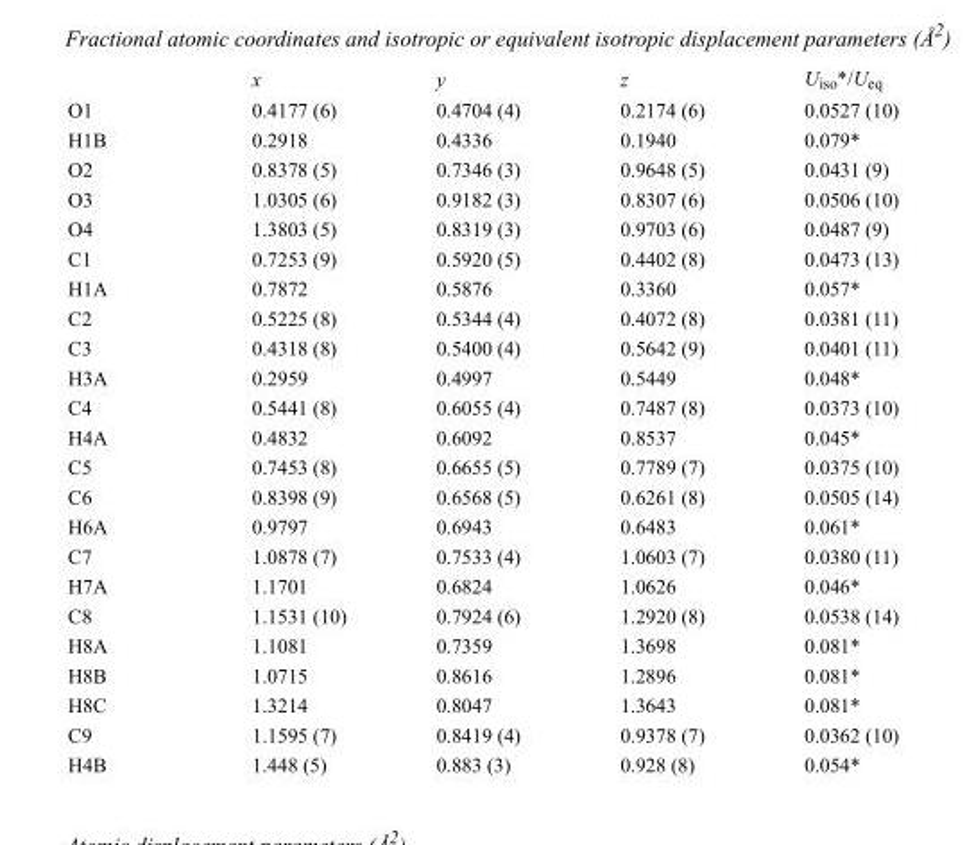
<table><thead><tr><td></td><td>x</td><td>y</td><td>z</td><td>U<sub>iso</sub>*/U<sub>eq</sub></td></tr></thead><tbody><tr><td>O1</td><td>0.4177 (6)</td><td>0.4704 (4)</td><td>0.2174 (6)</td><td>0.0527 (10)</td></tr><tr><td>H1B</td><td>0.2918</td><td>0.4336</td><td>0.1940</td><td>0.079*</td></tr><tr><td>O2</td><td>0.8378 (5)</td><td>0.7346 (3)</td><td>0.9648 (5)</td><td>0.0431 (9)</td></tr><tr><td>O3</td><td>1.0305 (6)</td><td>0.9182 (3)</td><td>0.8307 (6)</td><td>0.0506 (10)</td></tr><tr><td>O4</td><td>1.3803 (5)</td><td>0.8319 (3)</td><td>0.9703 (6)</td><td>0.0487 (9)</td></tr><tr><td>C1</td><td>0.7253 (9)</td><td>0.5920 (5)</td><td>0.4402 (8)</td><td>0.0473 (13)</td></tr><tr><td>H1A</td><td>0.7872</td><td>0.5876</td><td>0.3360</td><td>0.057*</td></tr><tr><td>C2</td><td>0.5225 (8)</td><td>0.5344 (4)</td><td>0.4072 (8)</td><td>0.0381 (11)</td></tr><tr><td>C3</td><td>0.4318 (8)</td><td>0.5400 (4)</td><td>0.5642 (9)</td><td>0.0401 (11)</td></tr><tr><td>H3A</td><td>0.2959</td><td>0.4997</td><td>0.5449</td><td>0.048*</td></tr><tr><td>C4</td><td>0.5441 (8)</td><td>0.6055 (4)</td><td>0.7487 (8)</td><td>0.0373 (10)</td></tr><tr><td>H4A</td><td>0.4832</td><td>0.6092</td><td>0.8537</td><td>0.045*</td></tr><tr><td>C5</td><td>0.7453 (8)</td><td>0.6655 (5)</td><td>0.7789 (7)</td><td>0.0375 (10)</td></tr><tr><td>C6</td><td>0.8398 (9)</td><td>0.6568 (5)</td><td>0.6261 (8)</td><td>0.0505 (14)</td></tr><tr><td>H6A</td><td>0.9797</td><td>0.6943</td><td>0.6483</td><td>0.061*</td></tr><tr><td>C7</td><td>1.0878 (7)</td><td>0.7533 (4)</td><td>1.0603 (7)</td><td>0.0380 (11)</td></tr><tr><td>H7A</td><td>1.1701</td><td>0.6824</td><td>1.0626</td><td>0.046*</td></tr><tr><td>C8</td><td>1.1531 (10)</td><td>0.7924 (6)</td><td>1.2920 (8)</td><td>0.0538 (14)</td></tr><tr><td>H8A</td><td>1.1081</td><td>0.7359</td><td>1.3698</td><td>0.081*</td></tr><tr><td>H8B</td><td>1.0715</td><td>0.8616</td><td>1.2896</td><td>0.081*</td></tr><tr><td>H8C</td><td>1.3214</td><td>0.8047</td><td>1.3643</td><td>0.081*</td></tr><tr><td>C9</td><td>1.1595 (7)</td><td>0.8419 (4)</td><td>0.9378 (7)</td><td>0.0362 (10)</td></tr><tr><td>H4B</td><td>1.448 (5)</td><td>0.883 (3)</td><td>0.928 (8)</td><td>0.054*</td></tr></tbody></table>